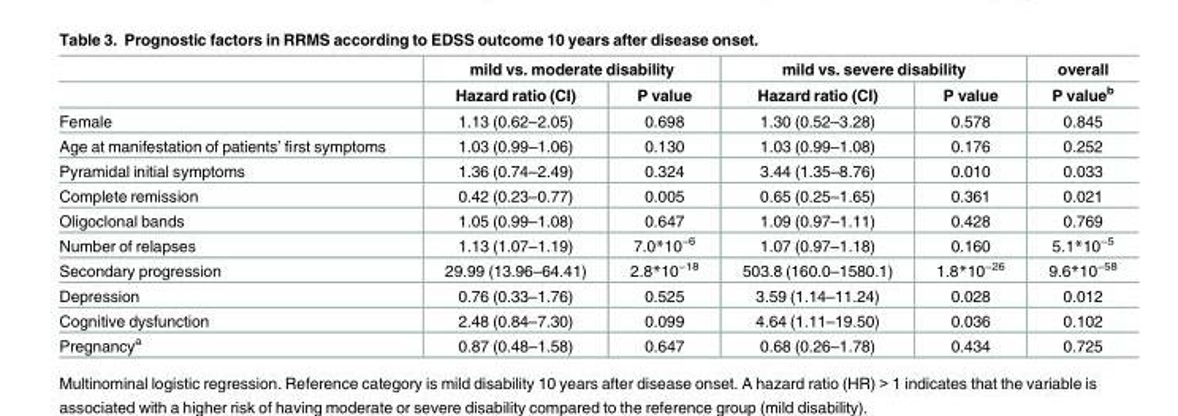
<table><thead><tr><td rowspan="2"></td><td colspan="2">mild vs. moderate disability</td><td colspan="2">mild vs. severe disability</td><td rowspan="2">overall P value<sup>b</sup></td></tr><tr><td>Hazard ratio (CI)</td><td>P value</td><td>Hazard ratio (CI)</td><td>P value</td></tr></thead><tbody><tr><td>Female</td><td>1.13 (0.62–2.05)</td><td>0.698</td><td>1.30 (0.52–3.28)</td><td>0.578</td><td>0.845</td></tr><tr><td>Age at manifestation of patients’ first symptoms</td><td>1.03 (0.99–1.06)</td><td>0.130</td><td>1.03 (0.99–1.08)</td><td>0.176</td><td>0.252</td></tr><tr><td>Pyramidal initial symptoms</td><td>1.36 (0.74–2.49)</td><td>0.324</td><td>3.44 (1.35–8.76)</td><td>0.010</td><td>0.033</td></tr><tr><td>Complete remission</td><td>0.42 (0.23–0.77)</td><td>0.005</td><td>0.65 (0.25–1.65)</td><td>0.361</td><td>0.021</td></tr><tr><td>Oligoclonal bands</td><td>1.05 (0.99–1.08)</td><td>0.647</td><td>1.09 (0.97–1.11)</td><td>0.428</td><td>0.769</td></tr><tr><td>Number of relapses</td><td>1.13 (1.07–1.19)</td><td>7.0*10<sup>−6</sup></td><td>1.07 (0.97–1.18)</td><td>0.160</td><td>5.1*10<sup>−5</sup></td></tr><tr><td>Secondary progression</td><td>29.99 (13.96–64.41)</td><td>2.8*10<sup>−18</sup></td><td>503.8 (160.0–1580.1)</td><td>1.8*10<sup>−26</sup></td><td>9.6*10<sup>−58</sup></td></tr><tr><td>Depression</td><td>0.76 (0.33–1.76)</td><td>0.525</td><td>3.59 (1.14–11.24)</td><td>0.028</td><td>0.012</td></tr><tr><td>Cognitive dysfunction</td><td>2.48 (0.84–7.30)</td><td>0.099</td><td>4.64 (1.11–19.50)</td><td>0.036</td><td>0.102</td></tr><tr><td>Pregnancy<sup>a</sup></td><td>0.87 (0.48–1.58)</td><td>0.647</td><td>0.68 (0.26–1.78)</td><td>0.434</td><td>0.725</td></tr></tbody></table>